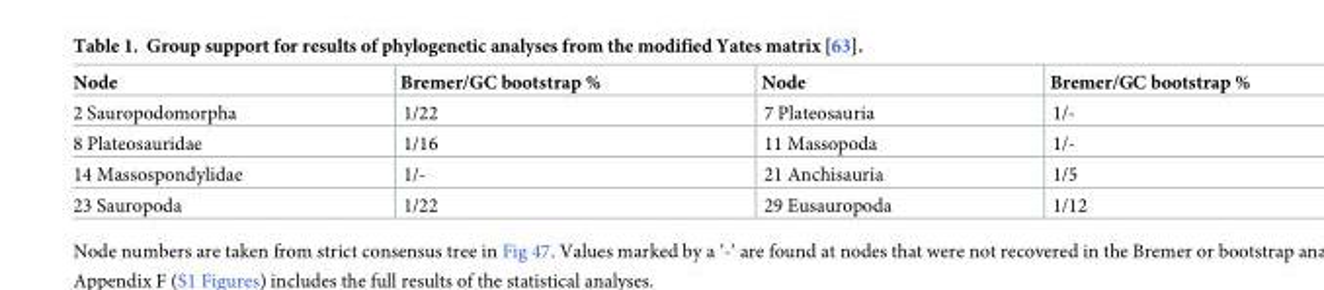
<table><thead><tr><td>Node</td><td>Bremer/GC bootstrap %</td><td>Node</td><td>Bremer/GC bootstrap %</td></tr></thead><tbody><tr><td>2 Sauropodomorpha</td><td>1/22</td><td>7 Plateosauria</td><td>1/-</td></tr><tr><td>8 Plateosauridae</td><td>1/16</td><td>11 Massopoda</td><td>1/-</td></tr><tr><td>14 Massospondylidae</td><td>1/-</td><td>21 Anchisauria</td><td>1/5</td></tr><tr><td>23 Sauropoda</td><td>1/22</td><td>29 Eusauropoda</td><td>1/12</td></tr></tbody></table>